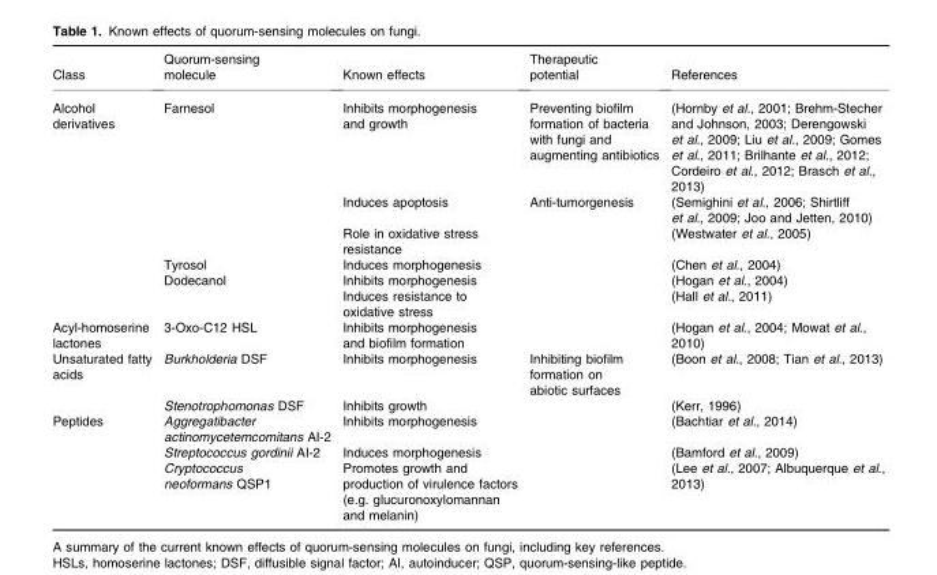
<table><thead><tr><td>Class</td><td>Quorum-sensing molecule</td><td>Known effects</td><td>Therapeutic potential</td><td>References</td></tr></thead><tbody><tr><td rowspan="6">Alcohol derivatives</td><td rowspan="3">Farnesol</td><td>Inhibits morphogenesis and growth</td><td>Preventing biofilm formation of bacteria with fungi and augmenting antibiotics</td><td>(Hornby et al., 2001; Brehm-Stecher and Johnson, 2003; Derengowski et al., 2009; Liu et al., 2009; Gomes et al., 2011; Brilhante et al., 2012; Cordeiro et al., 2012; Brasch et al., 2013)</td></tr><tr><td>Induces apoptosis</td><td>Anti-tumorgenesis</td><td>(Semighini et al., 2006; Shirtliff et al., 2009; Joo and Jetten, 2010)</td></tr><tr><td>Role in oxidative stress resistance</td><td></td><td>(Westwater et al., 2005)</td></tr><tr><td>Tyrosol</td><td>Induces morphogenesis</td><td></td><td>(Chen et al., 2004)</td></tr><tr><td rowspan="2">Dodecanol</td><td>Inhibits morphogenesis</td><td></td><td>(Hogan et al., 2004)</td></tr><tr><td>Induces resistance to oxidative stress</td><td></td><td>(Hall et al., 2011)</td></tr><tr><td>Acyl-homoserine lactones</td><td>3-Oxo-C12 HSL</td><td>Inhibits morphogenesis and biofilm formation</td><td></td><td>(Hogan et al., 2004; Mowat et al., 2010)</td></tr><tr><td rowspan="2">Unsaturated fatty acids</td><td>Burkholderia DSF</td><td>Inhibits morphogenesis</td><td>Inhibiting biofilm formation on abiotic surfaces</td><td>(Boon et al., 2008; Tian et al., 2013)</td></tr><tr><td>Stenotrophomonas DSF</td><td>Inhibits growth</td><td></td><td>(Kerr, 1996)</td></tr><tr><td rowspan="3">Peptides</td><td>Aggregatibacter actinomycetemcomitans AI-2</td><td>Inhibits morphogenesis</td><td></td><td>(Bachtiar et al., 2014)</td></tr><tr><td>Streptococcus gordinii AI-2</td><td>Induces morphogenesis</td><td></td><td>(Bamford et al., 2009)</td></tr><tr><td>Cryptococcus neoformans QSP1</td><td>Promotes growth and production of virulence factors (e.g. glucuronoxylomannan and melanin)</td><td></td><td>(Lee et al., 2007; Albuquerque et al., 2013)</td></tr></tbody></table>